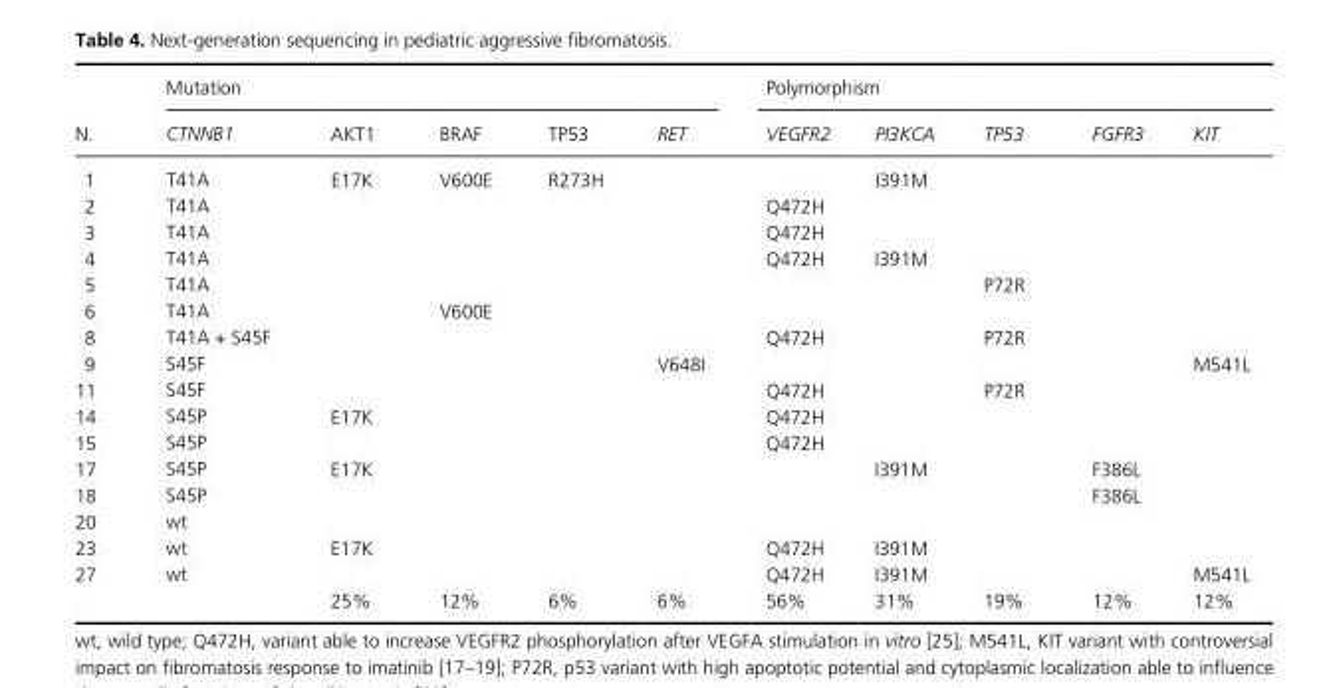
<table><thead><tr><td rowspan="2">N.</td><td colspan="5">Mutation</td><td colspan="5">Polymorphism</td></tr><tr><td>CTNNB1</td><td>AKT1</td><td>BRAF</td><td>TP53</td><td>RET</td><td>VEGFR2</td><td>PI3KCA</td><td>TP53</td><td>FGFR3</td><td>KIT</td></tr></thead><tbody><tr><td>1</td><td>T41A</td><td>E17K</td><td>V600E</td><td>R273H</td><td></td><td></td><td>I391M</td><td></td><td></td><td></td></tr><tr><td>2</td><td>T41A</td><td></td><td></td><td></td><td></td><td>Q472H</td><td></td><td></td><td></td><td></td></tr><tr><td>3</td><td>T41A</td><td></td><td></td><td></td><td></td><td>Q472H</td><td></td><td></td><td></td><td></td></tr><tr><td>4</td><td>T41A</td><td></td><td></td><td></td><td></td><td>Q472H</td><td>I391M</td><td></td><td></td><td></td></tr><tr><td>5</td><td>T41A</td><td></td><td></td><td></td><td></td><td></td><td></td><td>P72R</td><td></td><td></td></tr><tr><td>6</td><td>T41A</td><td></td><td>V600E</td><td></td><td></td><td></td><td></td><td></td><td></td><td></td></tr><tr><td>8</td><td>T41A + S45F</td><td></td><td></td><td></td><td></td><td>Q472H</td><td></td><td>P72R</td><td></td><td></td></tr><tr><td>9</td><td>S45F</td><td></td><td></td><td></td><td>V648I</td><td></td><td></td><td></td><td></td><td>M541L</td></tr><tr><td>11</td><td>S45F</td><td></td><td></td><td></td><td></td><td>Q472H</td><td></td><td>P72R</td><td></td><td></td></tr><tr><td>14</td><td>S45P</td><td>E17K</td><td></td><td></td><td></td><td>Q472H</td><td></td><td></td><td></td><td></td></tr><tr><td>15</td><td>S45P</td><td></td><td></td><td></td><td></td><td>Q472H</td><td></td><td></td><td></td><td></td></tr><tr><td>17</td><td>S45P</td><td>E17K</td><td></td><td></td><td></td><td></td><td>I391M</td><td></td><td>F386L</td><td></td></tr><tr><td>18</td><td>S45P</td><td></td><td></td><td></td><td></td><td></td><td></td><td></td><td>F386L</td><td></td></tr><tr><td>20</td><td>wt</td><td></td><td></td><td></td><td></td><td></td><td></td><td></td><td></td><td></td></tr><tr><td>23</td><td>wt</td><td>E17K</td><td></td><td></td><td></td><td>Q472H</td><td>I391M</td><td></td><td></td><td></td></tr><tr><td rowspan="2">27</td><td>wt</td><td></td><td></td><td></td><td></td><td>Q472H</td><td>I391M</td><td></td><td></td><td>M541L</td></tr><tr><td></td><td>25%</td><td>12%</td><td>6%</td><td>6%</td><td>56%</td><td>31%</td><td>19%</td><td>12%</td><td>12%</td></tr></tbody></table>